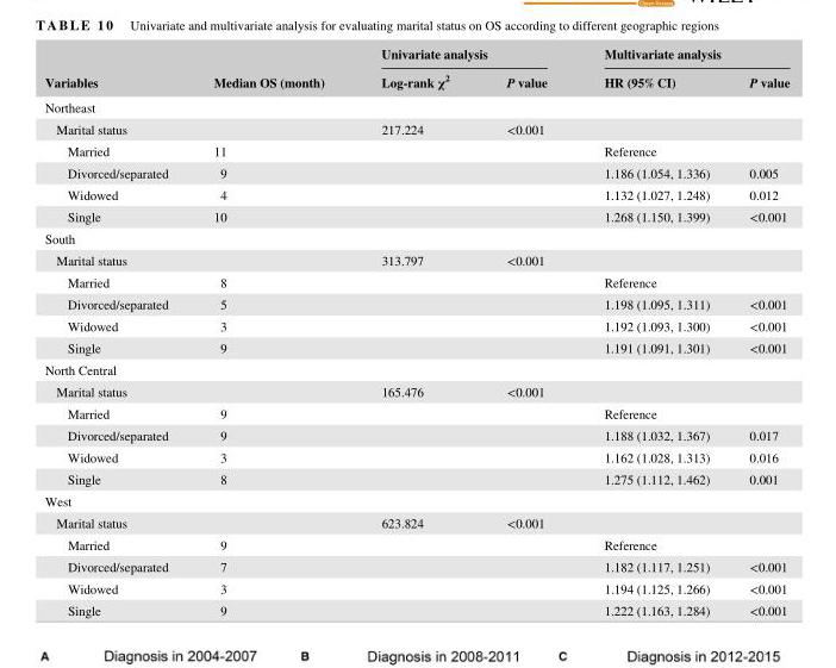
<table><thead><tr><td rowspan="2">Variables</td><td rowspan="2">Median OS (month)</td><td colspan="2">Univariate analysis</td><td colspan="2">Multivariate analysis</td></tr><tr><td>Log- rank χ<sup>2</sup></td><td>P value</td><td>HR (95% CI)</td><td>P value</td></tr></thead><tbody><tr><td colspan="6">Northeast</td></tr><tr><td>Marital status</td><td></td><td>217.224</td><td>&lt;0.001</td><td></td><td></td></tr><tr><td>Married</td><td>11</td><td></td><td></td><td>Reference</td><td></td></tr><tr><td>Divorced/separated</td><td>9</td><td></td><td></td><td>1.186 (1.054, 1.336)</td><td>0.005</td></tr><tr><td>Widowed</td><td>4</td><td></td><td></td><td>1.132 (1.027, 1.248)</td><td>0.012</td></tr><tr><td>Single</td><td>10</td><td></td><td></td><td>1.268 (1.150, 1.399)</td><td>&lt;0.001</td></tr><tr><td colspan="6">South</td></tr><tr><td>Marital status</td><td></td><td>313.797</td><td>&lt;0.001</td><td></td><td></td></tr><tr><td>Married</td><td>8</td><td></td><td></td><td>Reference</td><td></td></tr><tr><td>Divorced/separated</td><td>5</td><td></td><td></td><td>1.198 (1.095, 1.311)</td><td>&lt;0.001</td></tr><tr><td>Widowed</td><td>3</td><td></td><td></td><td>1.192 (1.093, 1.300)</td><td>&lt;0.001</td></tr><tr><td>Single</td><td>9</td><td></td><td></td><td>1.191 (1.091, 1.301)</td><td>&lt;0.001</td></tr><tr><td colspan="6">North Central</td></tr><tr><td>Marital status</td><td></td><td>165.476</td><td>&lt;0.001</td><td></td><td></td></tr><tr><td>Married</td><td>9</td><td></td><td></td><td>Reference</td><td></td></tr><tr><td>Divorced/separated</td><td>9</td><td></td><td></td><td>1.188 (1.032, 1.367)</td><td>0.017</td></tr><tr><td>Widowed</td><td>3</td><td></td><td></td><td>1.162 (1.028, 1.313)</td><td>0.016</td></tr><tr><td>Single</td><td>8</td><td></td><td></td><td>1.275 (1.112, 1.462)</td><td>0.001</td></tr><tr><td colspan="6">West</td></tr><tr><td>Marital status</td><td></td><td>623.824</td><td>&lt;0.001</td><td></td><td></td></tr><tr><td>Married</td><td>9</td><td></td><td></td><td>Reference</td><td></td></tr><tr><td>Divorced/separated</td><td>7</td><td></td><td></td><td>1.182 (1.117, 1.251)</td><td>&lt;0.001</td></tr><tr><td>Widowed</td><td>3</td><td></td><td></td><td>1.194 (1.125, 1.266)</td><td>&lt;0.001</td></tr><tr><td>Single</td><td>9</td><td></td><td></td><td>1.222 (1.163, 1.284)</td><td>&lt;0.001</td></tr></tbody></table>